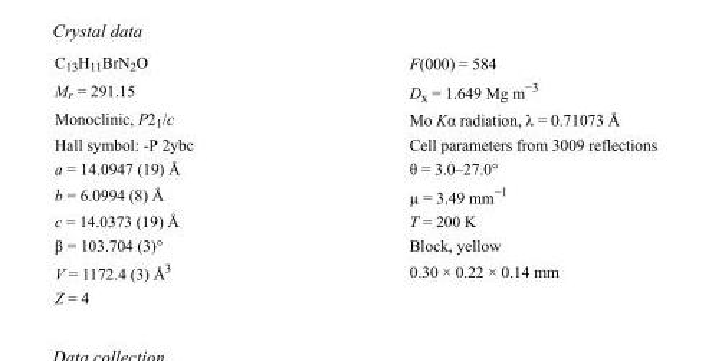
<table><tbody><tr><td>C<sub>13</sub>H<sub>11</sub>BrN<sub>2</sub>O</td><td>F(000) = 584</td></tr><tr><td>M<sub>r</sub> = 291.15</td><td>D<sub>x</sub> = 1.649 Mg m<sup>−3</sup></td></tr><tr><td>Monoclinic, P2<sub>1</sub>/c</td><td>Mo Kα radiation, λ = 0.71073 Å</td></tr><tr><td>Hall symbol: -P 2ybc</td><td>Cell parameters from 3009 reflections</td></tr><tr><td>a = 14.0947 (19) Å</td><td>θ = 3.0–27.0°</td></tr><tr><td>b = 6.0994 (8) Å</td><td>µ = 3.49 mm<sup>−1</sup></td></tr><tr><td>c = 14.0373 (19) Å</td><td>T = 200 K</td></tr><tr><td>β = 103.704 (3)°</td><td>Block, yellow</td></tr><tr><td>V = 1172.4 (3) Å<sup>3</sup></td><td>0.30 × 0.22 × 0.14 mm</td></tr><tr><td>Z = 4</td><td></td></tr></tbody></table>